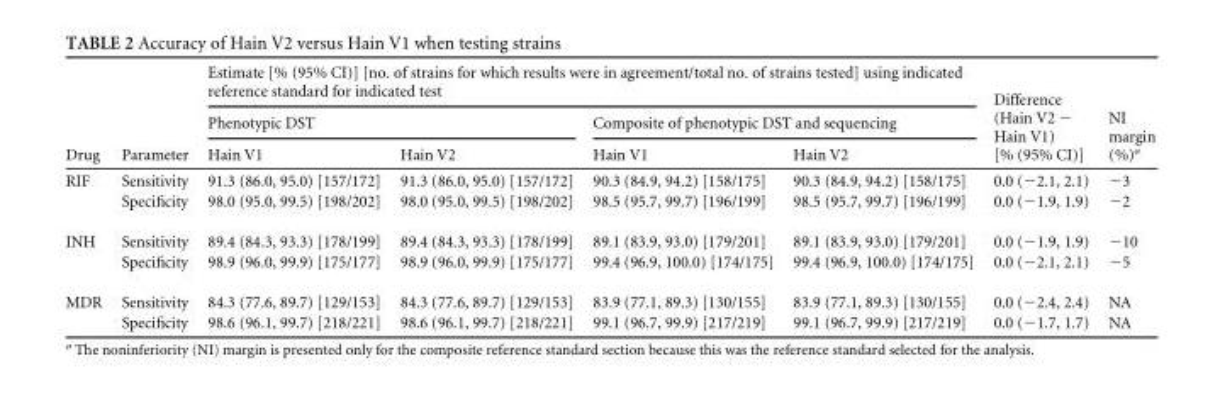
<table><thead><tr><td rowspan="3">Drug</td><td rowspan="3">Parameter</td><td colspan="4">Estimate [% (95% CI)] [no. of strains for which results were in agreement/total no. of strains tested] using indicated reference standard for indicated test</td><td rowspan="3">Difference (Hain V2 − Hain V1) [% (95% CI)]</td><td rowspan="3">NI margin (%)<sup>a</sup></td></tr><tr><td colspan="2">Phenotypic DST</td><td colspan="2">Composite of phenotypic DST and sequencing</td></tr><tr><td>Hain V1</td><td>Hain V2</td><td>Hain V1</td><td>Hain V2</td></tr></thead><tbody><tr><td rowspan="2">RIF</td><td>Sensitivity</td><td>91.3 (86.0, 95.0) [157/172]</td><td>91.3 (86.0, 95.0) [157/172]</td><td>90.3 (84.9, 94.2) [158/175]</td><td>90.3 (84.9, 94.2) [158/175]</td><td>0.0 (−2.1, 2.1)</td><td>−3</td></tr><tr><td>Specificity</td><td>98.0 (95.0, 99.5) [198/202]</td><td>98.0 (95.0, 99.5) [198/202]</td><td>98.5 (95.7, 99.7) [196/199]</td><td>98.5 (95.7, 99.7) [196/199]</td><td>0.0 (−1.9, 1.9)</td><td>−2</td></tr><tr><td rowspan="2">INH</td><td>Sensitivity</td><td>89.4 (84.3, 93.3) [178/199]</td><td>89.4 (84.3, 93.3) [178/199]</td><td>89.1 (83.9, 93.0) [179/201]</td><td>89.1 (83.9, 93.0) [179/201]</td><td>0.0 (−1.9, 1.9)</td><td>−10</td></tr><tr><td>Specificity</td><td>98.9 (96.0, 99.9) [175/177]</td><td>98.9 (96.0, 99.9) [175/177]</td><td>99.4 (96.9, 100.0) [174/175]</td><td>99.4 (96.9, 100.0) [174/175]</td><td>0.0 (−2.1, 2.1)</td><td>−5</td></tr><tr><td rowspan="2">MDR</td><td>Sensitivity</td><td>84.3 (77.6, 89.7) [129/153]</td><td>84.3 (77.6, 89.7) [129/153]</td><td>83.9 (77.1, 89.3) [130/155]</td><td>83.9 (77.1, 89.3) [130/155]</td><td>0.0 (−2.4, 2.4)</td><td>NA</td></tr><tr><td>Specificity</td><td>98.6 (96.1, 99.7) [218/221]</td><td>98.6 (96.1, 99.7) [218/221]</td><td>99.1 (96.7, 99.9) [217/219]</td><td>99.1 (96.7, 99.9) [217/219]</td><td>0.0 (−1.7, 1.7)</td><td>NA</td></tr></tbody></table>